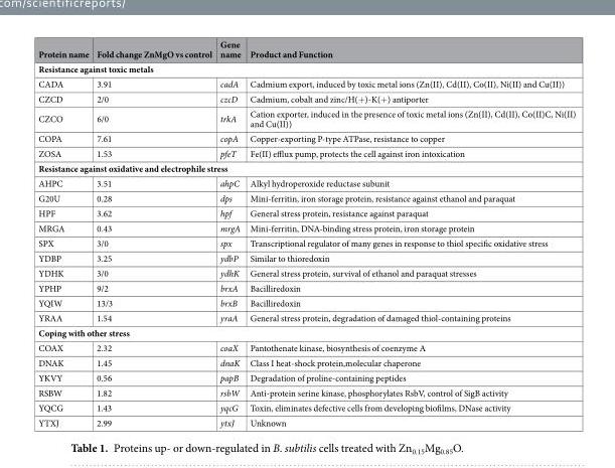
<table><thead><tr><td>Protein name</td><td>Fold change ZnMgO vs control</td><td>Gene name</td><td>Product and Function</td></tr></thead><tbody><tr><td colspan="4">Resistance against toxic metals</td></tr><tr><td>CADA</td><td>3.91</td><td>cadA</td><td>Cadmium export, induced by toxic metal ions (Zn(II), Cd(II), Co(II), Ni(II) and Cu(II))</td></tr><tr><td>CZCD</td><td>2/0</td><td>czcD</td><td>Cadmium, cobalt and zinc/H(+)-K(+) antiporter</td></tr><tr><td>CZCO</td><td>6/0</td><td>trkA</td><td>Cation exporter, induced in the presence of toxic metal ions (Zn(II), Cd(II), Co(II)C, Ni(II) and Cu(II))</td></tr><tr><td>COPA</td><td>7.61</td><td>copA</td><td>Copper-exporting P-type ATPase, resistance to copper</td></tr><tr><td>ZOSA</td><td>1.53</td><td>pfeT</td><td>Fe(II) efflux pump, protects the cell against iron intoxication</td></tr><tr><td colspan="4">Resistance against oxidative and electrophile stress</td></tr><tr><td>AHPC</td><td>3.51</td><td>ahpC</td><td>Alkyl hydroperoxide reductase subunit</td></tr><tr><td>G20U</td><td>0.28</td><td>dps</td><td>Mini-ferritin, iron storage protein, resistance against ethanol and paraquat</td></tr><tr><td>HPF</td><td>3.62</td><td>hpf</td><td>General stress protein, resistance against paraquat</td></tr><tr><td>MRGA</td><td>0.43</td><td>mrgA</td><td>Mini-ferritin, DNA-binding stress protein, iron storage protein</td></tr><tr><td>SPX</td><td>3/0</td><td>spx</td><td>Transcriptional regulator of many genes in response to thiol specific oxidative stress</td></tr><tr><td>YDBP</td><td>3.25</td><td>ydbP</td><td>Similar to thioredoxin</td></tr><tr><td>YDHK</td><td>3/0</td><td>ydhK</td><td>General stress protein, survival of ethanol and paraquat stresses</td></tr><tr><td>YPHP</td><td>9/2</td><td>brxA</td><td>Bacilliredoxin</td></tr><tr><td>YQIW</td><td>13/3</td><td>brxB</td><td>Bacilliredoxin</td></tr><tr><td>YRAA</td><td>1.54</td><td>yraA</td><td>General stress protein, degradation of damaged thiol-containing proteins</td></tr><tr><td colspan="4">Coping with other stress</td></tr><tr><td>COAX</td><td>2.32</td><td>coaX</td><td>Pantothenate kinase, biosynthesis of coenzyme A</td></tr><tr><td>DNAK</td><td>1.45</td><td>dnaK</td><td>Class I heat-shock protein,molecular chaperone</td></tr><tr><td>YKVY</td><td>0.56</td><td>papB</td><td>Degradation of proline-containing peptides</td></tr><tr><td>RSBW</td><td>1.82</td><td>rsbW</td><td>Anti-protein serine kinase, phosphorylates RsbV, control of SigB activity</td></tr><tr><td>YQCG</td><td>1.43</td><td>yqcG</td><td>Toxin, eliminates defective cells from developing biofilms, DNase activity</td></tr><tr><td>YTXJ</td><td>2.99</td><td>ytxJ</td><td>Unknown</td></tr></tbody></table>